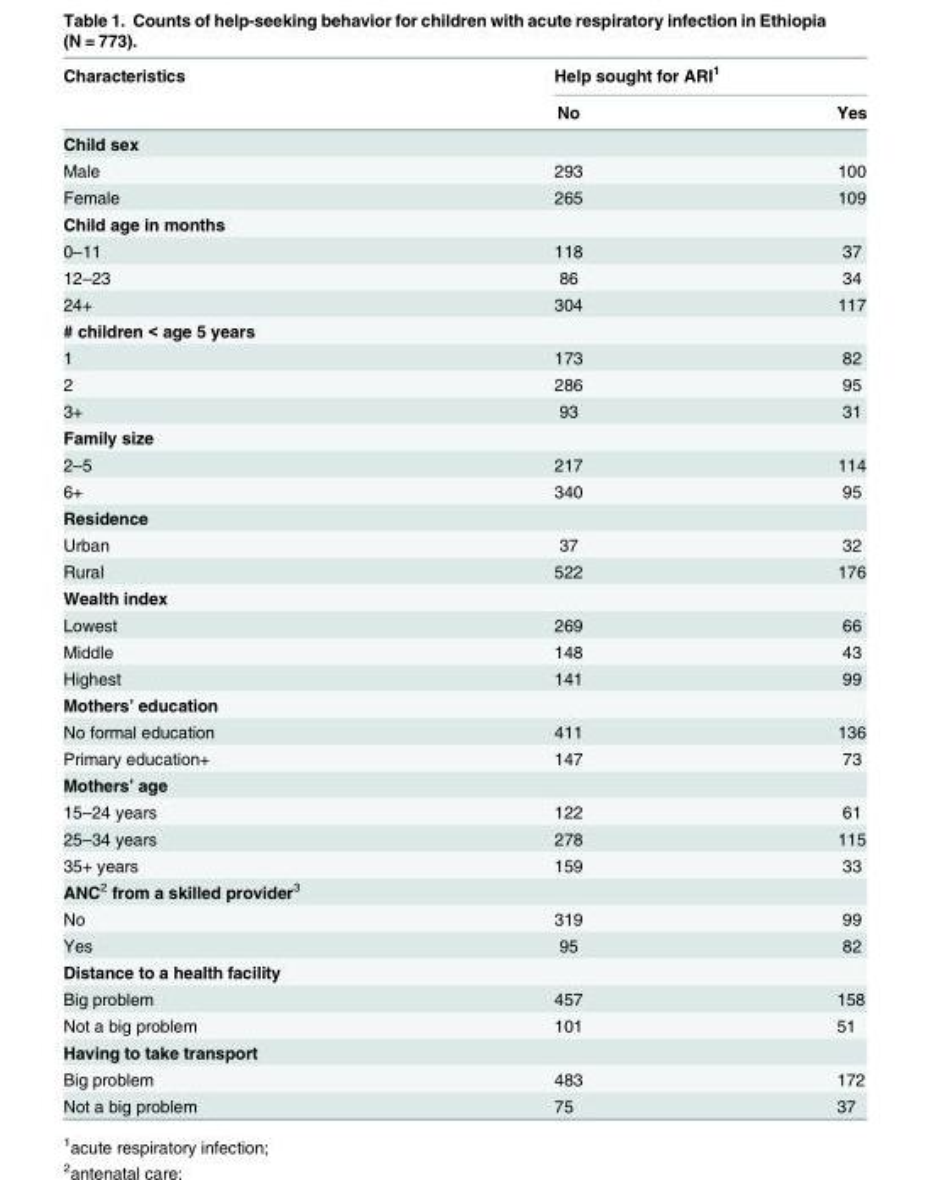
<table><thead><tr><td rowspan="2">Characteristics</td><td colspan="2">Help sought for ARI<sup>1</sup></td></tr><tr><td>No</td><td>Yes</td></tr></thead><tbody><tr><td colspan="3">Child sex</td></tr><tr><td>Male</td><td>293</td><td>100</td></tr><tr><td>Female</td><td>265</td><td>109</td></tr><tr><td colspan="3">Child age in months</td></tr><tr><td>0–11</td><td>118</td><td>37</td></tr><tr><td>12–23</td><td>86</td><td>34</td></tr><tr><td>24+</td><td>304</td><td>117</td></tr><tr><td colspan="3"># children &lt; age 5 years</td></tr><tr><td>1</td><td>173</td><td>82</td></tr><tr><td>2</td><td>286</td><td>95</td></tr><tr><td>3+</td><td>93</td><td>31</td></tr><tr><td colspan="3">Family size</td></tr><tr><td>2–5</td><td>217</td><td>114</td></tr><tr><td>6+</td><td>340</td><td>95</td></tr><tr><td colspan="3">Residence</td></tr><tr><td>Urban</td><td>37</td><td>32</td></tr><tr><td>Rural</td><td>522</td><td>176</td></tr><tr><td colspan="3">Wealth index</td></tr><tr><td>Lowest</td><td>269</td><td>66</td></tr><tr><td>Middle</td><td>148</td><td>43</td></tr><tr><td>Highest</td><td>141</td><td>99</td></tr><tr><td colspan="3">Mothers’ education</td></tr><tr><td>No formal education</td><td>411</td><td>136</td></tr><tr><td>Primary education+</td><td>147</td><td>73</td></tr><tr><td colspan="3">Mothers’ age</td></tr><tr><td>15–24 years</td><td>122</td><td>61</td></tr><tr><td>25–34 years</td><td>278</td><td>115</td></tr><tr><td>35+ years</td><td>159</td><td>33</td></tr><tr><td colspan="3">ANC<sup>2</sup> from a skilled provider<sup>3</sup></td></tr><tr><td>No</td><td>319</td><td>99</td></tr><tr><td>Yes</td><td>95</td><td>82</td></tr><tr><td colspan="3">Distance to a health facility</td></tr><tr><td>Big problem</td><td>457</td><td>158</td></tr><tr><td>Not a big problem</td><td>101</td><td>51</td></tr><tr><td colspan="3">Having to take transport</td></tr><tr><td>Big problem</td><td>483</td><td>172</td></tr><tr><td>Not a big problem</td><td>75</td><td>37</td></tr></tbody></table>